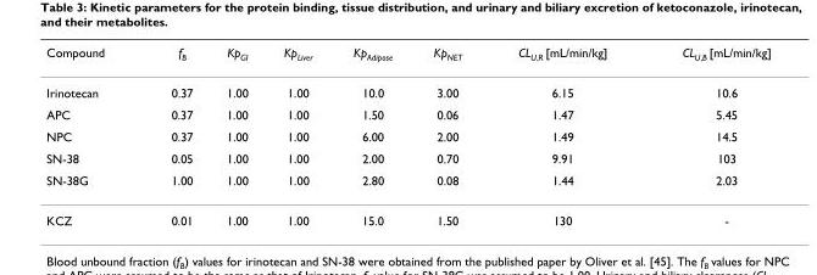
<table><thead><tr><td>Compound</td><td>f<sub>B</sub></td><td>Kp<sub>GI</sub></td><td>Kp<sub>Liver</sub></td><td>Kp<sub>Adipose</sub></td><td>Kp<sub>NET</sub></td><td>CL<sub>U,R</sub> [mL/min/kg]</td><td>CL<sub>U,B</sub> [mL/min/kg]</td></tr></thead><tbody><tr><td>Irinotecan</td><td>0.37</td><td>1.00</td><td>1.00</td><td>10.0</td><td>3.00</td><td>6.15</td><td>10.6</td></tr><tr><td>APC</td><td>0.37</td><td>1.00</td><td>1.00</td><td>1.50</td><td>0.06</td><td>1.47</td><td>5.45</td></tr><tr><td>NPC</td><td>0.37</td><td>1.00</td><td>1.00</td><td>6.00</td><td>2.00</td><td>1.49</td><td>14.5</td></tr><tr><td>SN-38</td><td>0.05</td><td>1.00</td><td>1.00</td><td>2.00</td><td>0.70</td><td>9.91</td><td>103</td></tr><tr><td>SN-38G</td><td>1.00</td><td>1.00</td><td>1.00</td><td>2.80</td><td>0.08</td><td>1.44</td><td>2.03</td></tr><tr><td>KCZ</td><td>0.01</td><td>1.00</td><td>1.00</td><td>15.0</td><td>1.50</td><td>130</td><td>-</td></tr></tbody></table>